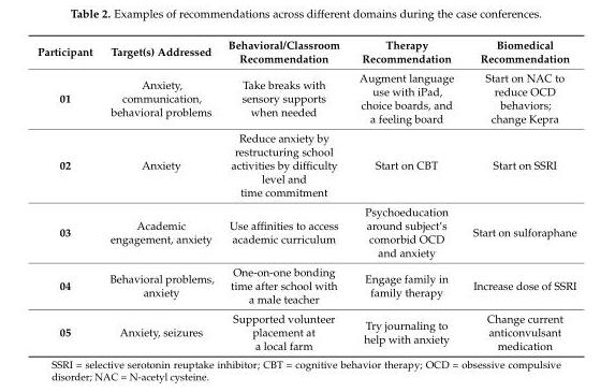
<table><thead><tr><td>Participant</td><td>Target(s) Addressed</td><td>Behavioral/Classroom Recommendation</td><td>Therapy Recommendation</td><td>Biomedical Recommendation</td></tr></thead><tbody><tr><td>01</td><td>Anxiety, communication, behavioral problems</td><td>Take breaks with sensory supports when needed</td><td>Augment language use with iPad, choice boards, and a feeling board</td><td>Start on NAC to reduce OCD behaviors; change Kepra</td></tr><tr><td>02</td><td>Anxiety</td><td>Reduce anxiety by restructuring school activities by difficulty level and time commitment</td><td>Start on CBT</td><td>Start on SSRI</td></tr><tr><td>03</td><td>Academic engagement, anxiety</td><td>Use affinities to access academic curriculum</td><td>Psychoeducation around subject’s comorbid OCD and anxiety</td><td>Start on sulforaphane</td></tr><tr><td>04</td><td>Behavioral problems, anxiety</td><td>One-on-one bonding time after school with a male teacher</td><td>Engage family in family therapy</td><td>Increase dose of SSRI</td></tr><tr><td>05</td><td>Anxiety, seizures</td><td>Supported volunteer placement at a local farm</td><td>Try journaling to help with anxiety</td><td>Change current anticonvulsant medication</td></tr></tbody></table>